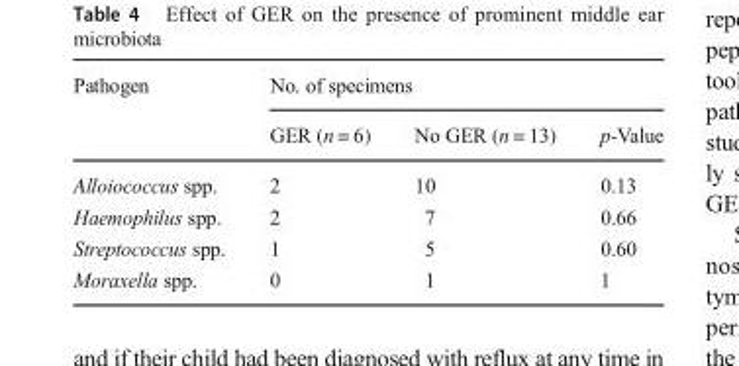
<table><thead><tr><td rowspan="2">Pathogen</td><td colspan="3">No. of specimens</td></tr><tr><td>GER (n = 6)</td><td>No GER (n = 13)</td><td>p-Value</td></tr></thead><tbody><tr><td>Alloiococcus spp.</td><td>2</td><td>10</td><td>0.13</td></tr><tr><td>Haemophilus spp.</td><td>2</td><td>7</td><td>0.66</td></tr><tr><td>Streptococcus spp.</td><td>1</td><td>5</td><td>0.60</td></tr><tr><td>Moraxella spp.</td><td>0</td><td>1</td><td>1</td></tr></tbody></table>